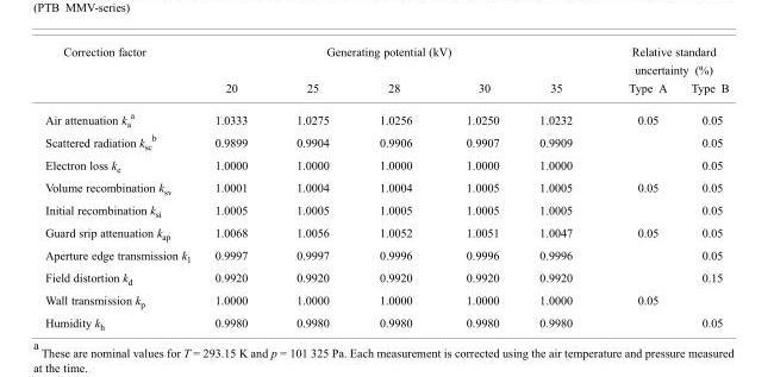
<table><thead><tr><td rowspan="2">Correction factor</td><td colspan="5">Generating potential (kV)</td><td colspan="2">Relative standard uncertainty (%)</td></tr><tr><td>20</td><td>25</td><td>28</td><td>30</td><td>35</td><td>Type A</td><td>Type B</td></tr></thead><tbody><tr><td>Air attenuation k<sub>a</sub> <sup>a</sup></td><td>1.0333</td><td>1.0275</td><td>1.0256</td><td>1.0250</td><td>1.0232</td><td>0.05</td><td>0.05</td></tr><tr><td>Scattered radiation k<sub>sc</sub> <sup>b</sup></td><td>0.9899</td><td>0.9904</td><td>0.9906</td><td>0.9907</td><td>0.9909</td><td></td><td>0.05</td></tr><tr><td>Electron loss k<sub>e</sub></td><td>1.0000</td><td>1.0000</td><td>1.0000</td><td>1.0000</td><td>1.0000</td><td></td><td>0.05</td></tr><tr><td>Volume recombination k<sub>sv</sub></td><td>1.0001</td><td>1.0004</td><td>1.0004</td><td>1.0005</td><td>1.0005</td><td>0.05</td><td>0.05</td></tr><tr><td>Initial recombination k<sub>si</sub></td><td>1.0005</td><td>1.0005</td><td>1.0005</td><td>1.0005</td><td>1.0005</td><td></td><td>0.05</td></tr><tr><td>Guard srip attenuation k<sub>ap</sub></td><td>1.0068</td><td>1.0056</td><td>1.0052</td><td>1.0051</td><td>1.0047</td><td>0.05</td><td>0.05</td></tr><tr><td>Aperture edge transmission k<sub>1</sub></td><td>0.9997</td><td>0.9997</td><td>0.9996</td><td>0.9996</td><td>0.9996</td><td></td><td>0.05</td></tr><tr><td>Field distortion k<sub>d</sub></td><td>0.9920</td><td>0.9920</td><td>0.9920</td><td>0.9920</td><td>0.9920</td><td></td><td>0.15</td></tr><tr><td>Wall transmission k<sub>p</sub></td><td>1.0000</td><td>1.0000</td><td>1.0000</td><td>1.0000</td><td>1.0000</td><td>0.05</td><td></td></tr><tr><td>Humidity k<sub>h</sub></td><td>0.9980</td><td>0.9980</td><td>0.9980</td><td>0.9980</td><td>0.9980</td><td></td><td>0.05</td></tr></tbody></table>